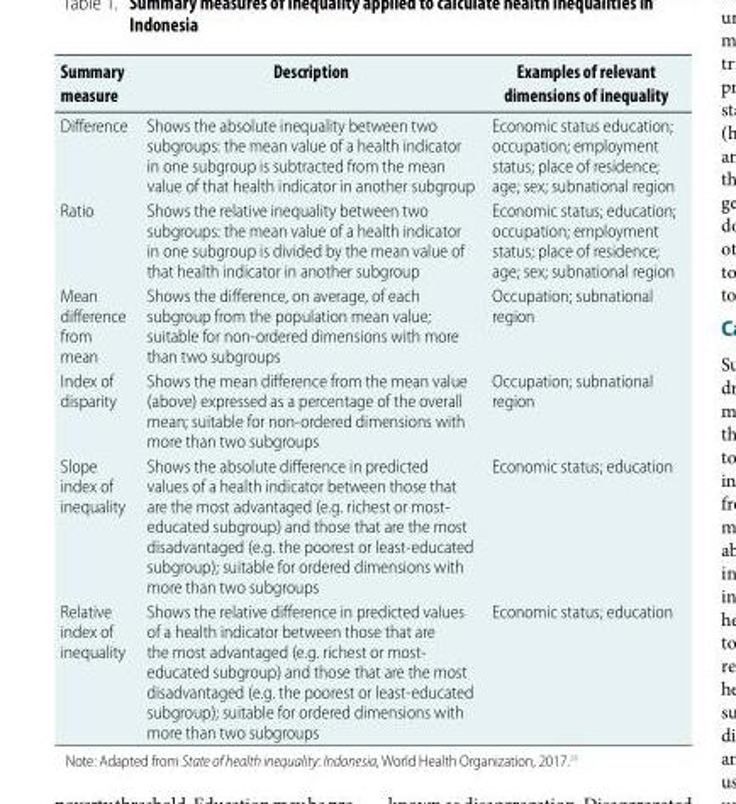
<table><thead><tr><td>Summary measure</td><td>Description</td><td>Examples of relevant dimensions of inequality</td></tr></thead><tbody><tr><td>Difference</td><td>Shows the absolute inequality between two subgroups: the mean value of a health indicator in one subgroup is subtracted from the mean value of that health indicator in another subgroup</td><td>Economic status education; occupation; employment status; place of residence; age; sex; subnational region</td></tr><tr><td>Ratio</td><td>Shows the relative inequality between two subgroups: the mean value of a health indicator in one subgroup is divided by the mean value of that health indicator in another subgroup</td><td>Economic status; education; occupation; employment status; place of residence; age; sex; subnational region</td></tr><tr><td>Mean difference from mean</td><td>Shows the difference, on average, of each subgroup from the population mean value; suitable for non-ordered dimensions with more than two subgroups</td><td>Occupation; subnational region</td></tr><tr><td>Index of disparity</td><td>Shows the mean difference from the mean value (above) expressed as a percentage of the overall mean; suitable for non-ordered dimensions with more than two subgroups</td><td>Occupation; subnational region</td></tr><tr><td>Slope index of inequality</td><td>Shows the absolute difference in predicted values of a health indicator between those that are the most advantaged (e.g. richest or most- educated subgroup) and those that are the most disadvantaged (e.g. the poorest or least-educated subgroup); suitable for ordered dimensions with more than two subgroups</td><td>Economic status; education</td></tr><tr><td>Relative index of inequality</td><td>Shows the relative difference in predicted values of a health indicator between those that are the most advantaged (e.g. richest or most- educated subgroup) and those that are the most disadvantaged (e.g. the poorest or least-educated subgroup); suitable for ordered dimensions with more than two subgroups</td><td>Economic status; education</td></tr></tbody></table>